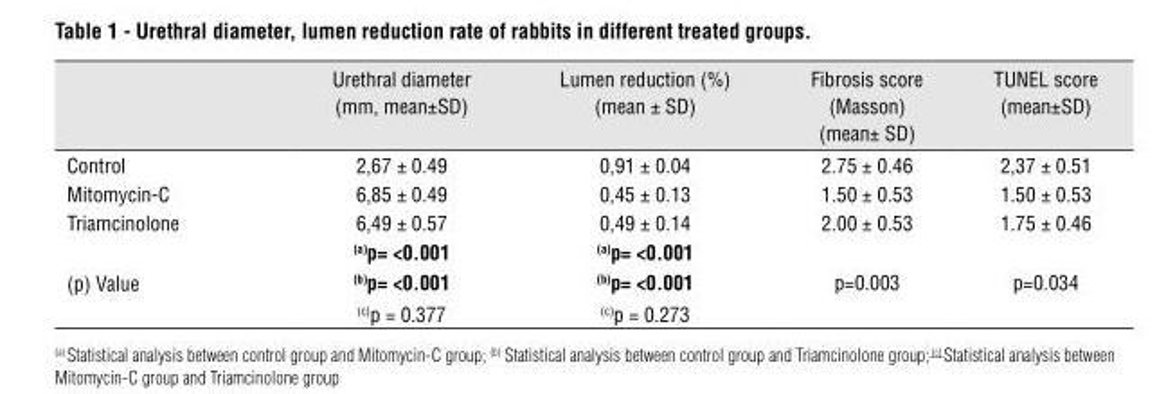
<table><thead><tr><td></td><td>Urethral diameter (mm, mean±SD)</td><td>Lumen reduction (%) (mean ± SD)</td><td>Fibrosis score (Masson) (mean± SD)</td><td>TUNEL score (mean±SD)</td></tr></thead><tbody><tr><td>Control</td><td>2,67 ± 0.49</td><td>0,91 ± 0.04</td><td>2.75 ± 0.46</td><td>2,37 ± 0.51</td></tr><tr><td>Mitomycin-C</td><td>6,85 ± 0.49</td><td>0,45 ± 0.13</td><td>1.50 ± 0.53</td><td>1.50 ± 0.53</td></tr><tr><td rowspan="2">Triamcinolone</td><td>6,49 ± 0.57</td><td>0,49 ± 0.14</td><td>2.00 ± 0.53</td><td>1.75 ± 0.46</td></tr><tr><td>(a)p= &lt;0.001</td><td>(a)p= &lt;0.001</td><td></td><td></td></tr><tr><td rowspan="2">(p) Value</td><td>(b)p= &lt;0.001</td><td>(b)p= &lt;0.001</td><td>p=0.003</td><td>p=0.034</td></tr><tr><td>(c)p = 0.377</td><td>(c)p = 0.273</td><td></td><td></td></tr></tbody></table>